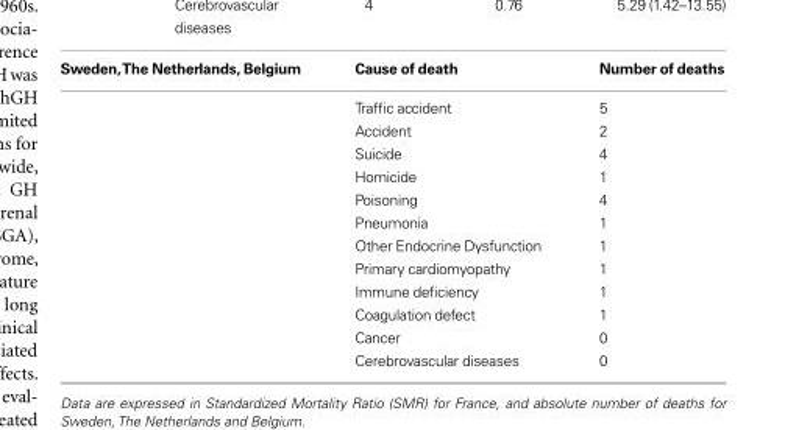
<table><thead><tr><td>Sweden, The Netherlands, Belgium</td><td>Cause of death</td><td>Number of deaths</td></tr></thead><tbody><tr><td></td><td>Traffic accident</td><td>5</td></tr><tr><td></td><td>Accident</td><td>2</td></tr><tr><td></td><td>Suicide</td><td>4</td></tr><tr><td></td><td>Homicide</td><td>1</td></tr><tr><td></td><td>Poisoning</td><td>4</td></tr><tr><td></td><td>Pneumonia</td><td>1</td></tr><tr><td></td><td>Other Endocrine Dysfunction</td><td>1</td></tr><tr><td></td><td>Primary cardiomyopathy</td><td>1</td></tr><tr><td></td><td>Immune deficiency</td><td>1</td></tr><tr><td></td><td>Coagulation defect</td><td>1</td></tr><tr><td></td><td>Cancer</td><td>0</td></tr><tr><td></td><td>Cerebrovascular diseases</td><td>0</td></tr></tbody></table>